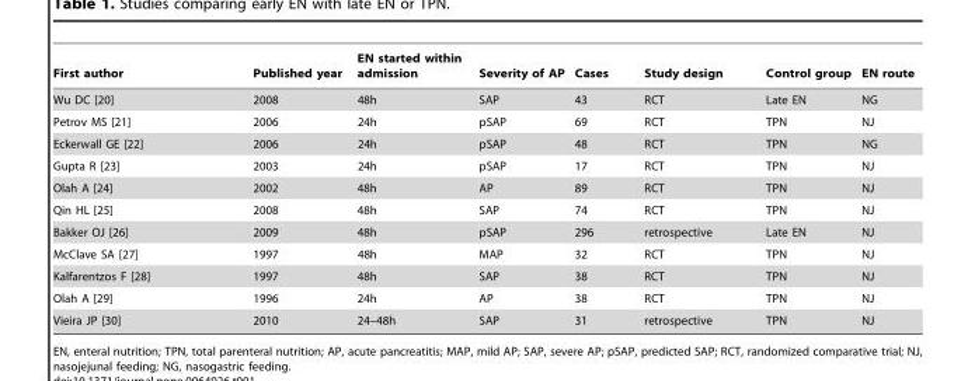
<table><thead><tr><td>First author</td><td>Published year</td><td>EN started within admission</td><td>Severity of AP</td><td>Cases</td><td>Study design</td><td>Control group</td><td>EN route</td></tr></thead><tbody><tr><td>Wu DC [20]</td><td>2008</td><td>48h</td><td>SAP</td><td>43</td><td>RCT</td><td>Late EN</td><td>NG</td></tr><tr><td>Petrov MS [21]</td><td>2006</td><td>24h</td><td>pSAP</td><td>69</td><td>RCT</td><td>TPN</td><td>NJ</td></tr><tr><td>Eckerwall GE [22]</td><td>2006</td><td>24h</td><td>pSAP</td><td>48</td><td>RCT</td><td>TPN</td><td>NG</td></tr><tr><td>Gupta R [23]</td><td>2003</td><td>24h</td><td>pSAP</td><td>17</td><td>RCT</td><td>TPN</td><td>NJ</td></tr><tr><td>Olah A [24]</td><td>2002</td><td>48h</td><td>AP</td><td>89</td><td>RCT</td><td>TPN</td><td>NJ</td></tr><tr><td>Qin HL [25]</td><td>2008</td><td>48h</td><td>SAP</td><td>74</td><td>RCT</td><td>TPN</td><td>NJ</td></tr><tr><td>Bakker OJ [26]</td><td>2009</td><td>48h</td><td>pSAP</td><td>296</td><td>retrospective</td><td>Late EN</td><td>NJ</td></tr><tr><td>McClave SA [27]</td><td>1997</td><td>48h</td><td>MAP</td><td>32</td><td>RCT</td><td>TPN</td><td>NJ</td></tr><tr><td>Kalfarentzos F [28]</td><td>1997</td><td>48h</td><td>SAP</td><td>38</td><td>RCT</td><td>TPN</td><td>NJ</td></tr><tr><td>Olah A [29]</td><td>1996</td><td>24h</td><td>AP</td><td>38</td><td>RCT</td><td>TPN</td><td>NJ</td></tr><tr><td>Vieira JP [30]</td><td>2010</td><td>24–48h</td><td>SAP</td><td>31</td><td>retrospective</td><td>TPN</td><td>NJ</td></tr></tbody></table>